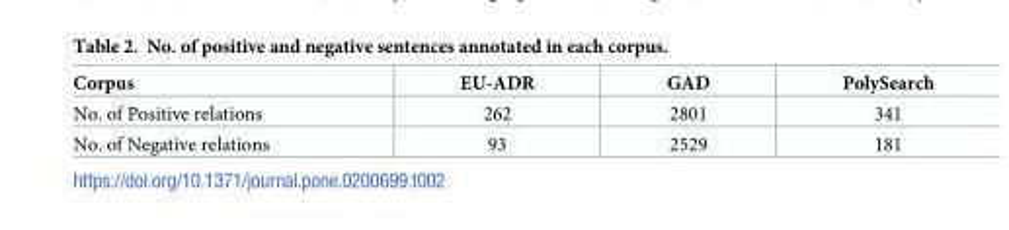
<table><thead><tr><td>Corpus</td><td>EU-ADR</td><td>GAD</td><td>PolySearch</td></tr></thead><tbody><tr><td>No. of Positive relations</td><td>262</td><td>2801</td><td>341</td></tr><tr><td>No. of Negative relations</td><td>93</td><td>2529</td><td>181</td></tr></tbody></table>